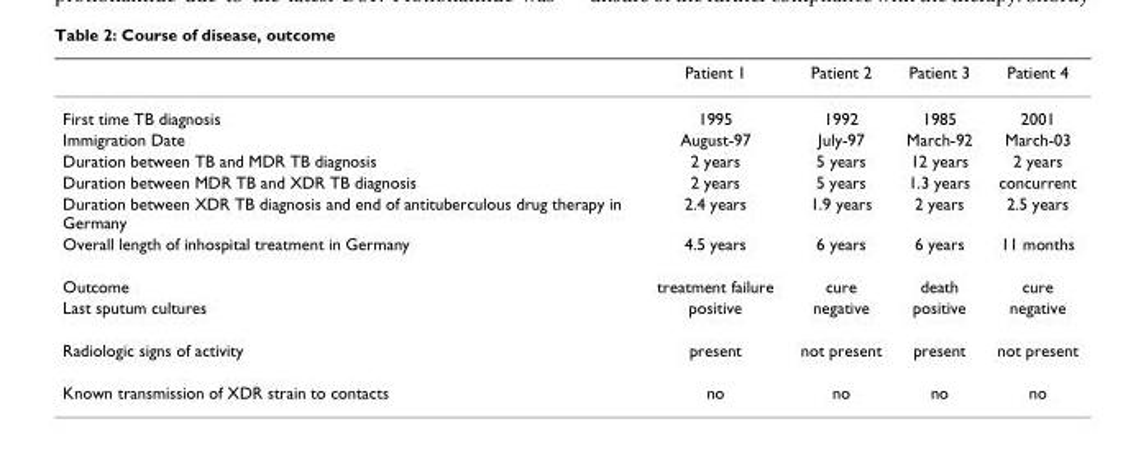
<table><thead><tr><td></td><td>Patient 1</td><td>Patient 2</td><td>Patient 3</td><td>Patient 4</td></tr></thead><tbody><tr><td>First time TB diagnosis</td><td>1995</td><td>1992</td><td>1985</td><td>2001</td></tr><tr><td>Immigration Date</td><td>August-97</td><td>July-97</td><td>March-92</td><td>March-03</td></tr><tr><td>Duration between TB and MDR TB diagnosis</td><td>2 years</td><td>5 years</td><td>12 years</td><td>2 years</td></tr><tr><td>Duration between MDR TB and XDR TB diagnosis</td><td>2 years</td><td>5 years</td><td>1.3 years</td><td>concurrent</td></tr><tr><td>Duration between XDR TB diagnosis and end of antituberculous drug therapy in Germany</td><td>2.4 years</td><td>1.9 years</td><td>2 years</td><td>2.5 years</td></tr><tr><td>Overall length of inhospital treatment in Germany</td><td>4.5 years</td><td>6 years</td><td>6 years</td><td>11 months</td></tr><tr><td>Outcome</td><td>treatment failure</td><td>cure</td><td>death</td><td>cure</td></tr><tr><td>Last sputum cultures</td><td>positive</td><td>negative</td><td>positive</td><td>negative</td></tr><tr><td>Radiologic signs of activity</td><td>present</td><td>not present</td><td>present</td><td>not present</td></tr><tr><td>Known transmission of XDR strain to contacts</td><td>no</td><td>no</td><td>no</td><td>no</td></tr></tbody></table>